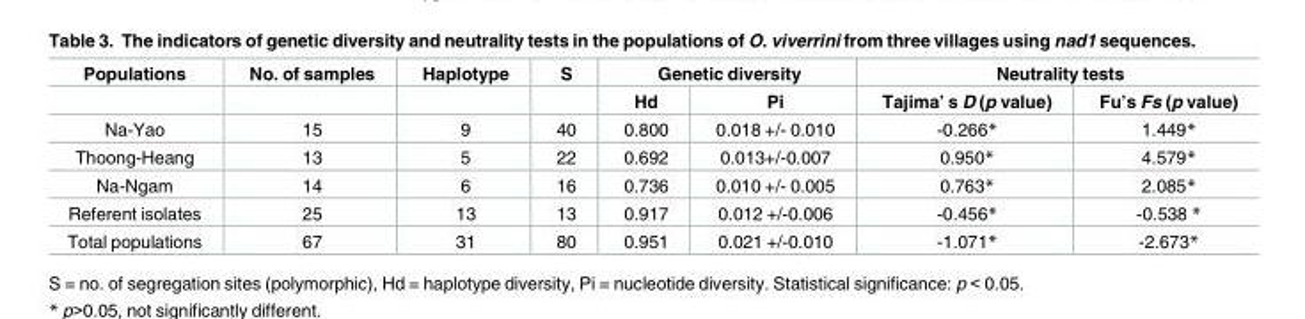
<table><thead><tr><td rowspan="2">Populations</td><td rowspan="2">No. of samples</td><td rowspan="2">Haplotype</td><td rowspan="2">S</td><td colspan="2">Genetic diversity</td><td colspan="2">Neutrality tests</td></tr><tr><td>Hd</td><td>Pi</td><td>Tajima’ s D (p value)</td><td>Fu’s Fs (p value)</td></tr></thead><tbody><tr><td>Na-Yao</td><td>15</td><td>9</td><td>40</td><td>0.800</td><td>0.018 +/- 0.010</td><td>-0.266*</td><td>1.449*</td></tr><tr><td>Thoong-Heang</td><td>13</td><td>5</td><td>22</td><td>0.692</td><td>0.013+/-0.007</td><td>0.950*</td><td>4.579*</td></tr><tr><td>Na-Ngam</td><td>14</td><td>6</td><td>16</td><td>0.736</td><td>0.010 +/- 0.005</td><td>0.763*</td><td>2.085*</td></tr><tr><td>Referent isolates</td><td>25</td><td>13</td><td>13</td><td>0.917</td><td>0.012 +/-0.006</td><td>-0.456*</td><td>-0.538 *</td></tr><tr><td>Total populations</td><td>67</td><td>31</td><td>80</td><td>0.951</td><td>0.021 +/-0.010</td><td>-1.071*</td><td>-2.673*</td></tr></tbody></table>